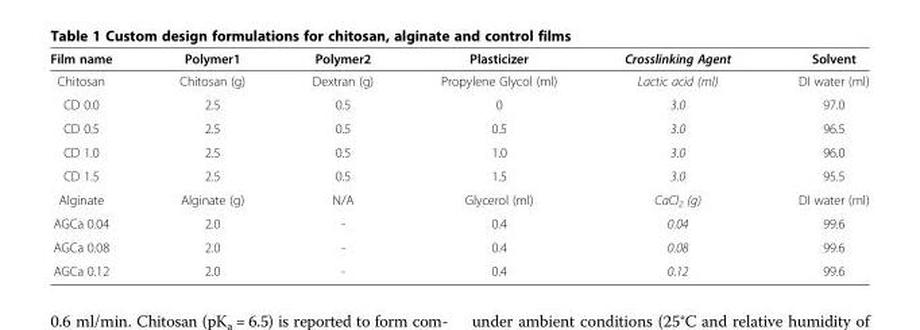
<table><thead><tr><td>Film name</td><td>Polymer1</td><td>Polymer2</td><td>Plasticizer</td><td>Crosslinking Agent</td><td>Solvent</td></tr></thead><tbody><tr><td>Chitosan</td><td>Chitosan (g)</td><td>Dextran (g)</td><td>Propylene Glycol (ml)</td><td>Lactic acid (ml)</td><td>DI water (ml)</td></tr><tr><td>CD 0.0</td><td>2.5</td><td>0.5</td><td>0</td><td>3.0</td><td>97.0</td></tr><tr><td>CD 0.5</td><td>2.5</td><td>0.5</td><td>0.5</td><td>3.0</td><td>96.5</td></tr><tr><td>CD 1.0</td><td>2.5</td><td>0.5</td><td>1.0</td><td>3.0</td><td>96.0</td></tr><tr><td>CD 1.5</td><td>2.5</td><td>0.5</td><td>1.5</td><td>3.0</td><td>95.5</td></tr><tr><td>Alginate</td><td>Alginate (g)</td><td>N/A</td><td>Glycerol (ml)</td><td>CaCl<sub>2</sub> (g)</td><td>DI water (ml)</td></tr><tr><td>AGCa 0.04</td><td>2.0</td><td>-</td><td>0.4</td><td>0.04</td><td>99.6</td></tr><tr><td>AGCa 0.08</td><td>2.0</td><td>-</td><td>0.4</td><td>0.08</td><td>99.6</td></tr><tr><td>AGCa 0.12</td><td>2.0</td><td>-</td><td>0.4</td><td>0.12</td><td>99.6</td></tr></tbody></table>